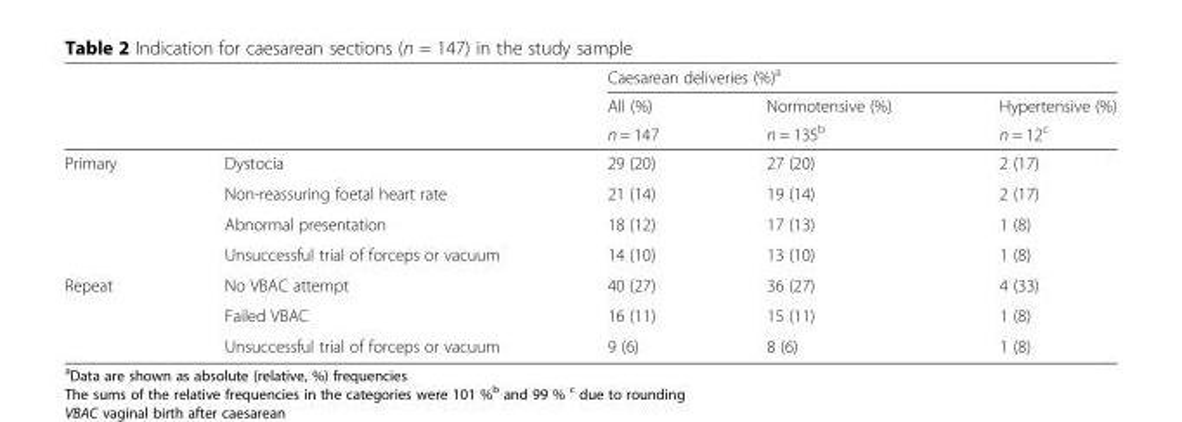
<table><thead><tr><td rowspan="3"></td><td rowspan="3"></td><td colspan="3">Caesarean deliveries (%)<sup>a</sup></td></tr><tr><td rowspan="2">All (%) n = 147</td><td rowspan="2">Normotensive (%) n = 135<sup>b</sup></td><td rowspan="2">Hypertensive (%) n = 12<sup>c</sup></td></tr><tr></tr></thead><tbody><tr><td rowspan="4">Primary</td><td>Dystocia</td><td>29 (20)</td><td>27 (20)</td><td>2 (17)</td></tr><tr><td>Non-reassuring foetal heart rate</td><td>21 (14)</td><td>19 (14)</td><td>2 (17)</td></tr><tr><td>Abnormal presentation</td><td>18 (12)</td><td>17 (13)</td><td>1 (8)</td></tr><tr><td>Unsuccessful trial of forceps or vacuum</td><td>14 (10)</td><td>13 (10)</td><td>1 (8)</td></tr><tr><td rowspan="3">Repeat</td><td>No VBAC attempt</td><td>40 (27)</td><td>36 (27)</td><td>4 (33)</td></tr><tr><td>Failed VBAC</td><td>16 (11)</td><td>15 (11)</td><td>1 (8)</td></tr><tr><td>Unsuccessful trial of forceps or vacuum</td><td>9 (6)</td><td>8 (6)</td><td>1 (8)</td></tr></tbody></table>